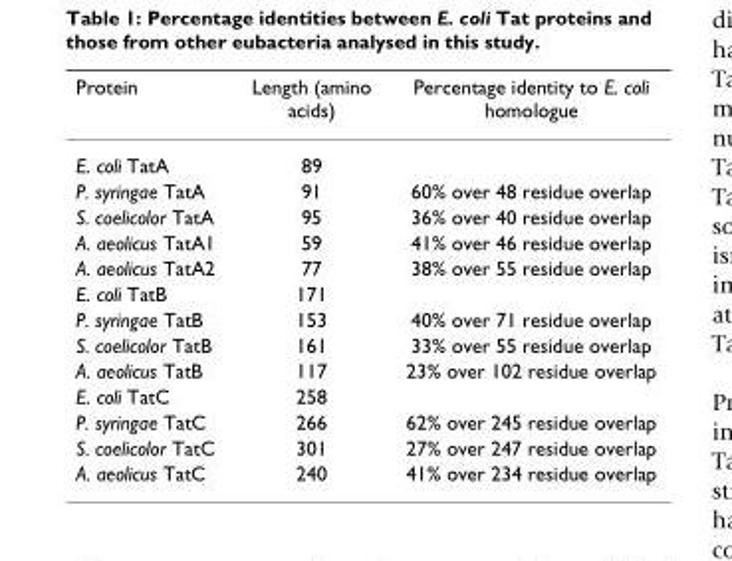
<table><thead><tr><td>Protein</td><td>Length (amino acids)</td><td>Percentage identity to E. coli homologue</td></tr></thead><tbody><tr><td>E. coli TatA</td><td>89</td><td></td></tr><tr><td>P. syringae TatA</td><td>91</td><td>60% over 48 residue overlap</td></tr><tr><td>S. coelicolor TatA</td><td>95</td><td>36% over 40 residue overlap</td></tr><tr><td>A. aeolicus TatA1</td><td>59</td><td>41% over 46 residue overlap</td></tr><tr><td>A. aeolicus TatA2</td><td>77</td><td>38% over 55 residue overlap</td></tr><tr><td>E. coli TatB</td><td>171</td><td></td></tr><tr><td>P. syringae TatB</td><td>153</td><td>40% over 71 residue overlap</td></tr><tr><td>S. coelicolor TatB</td><td>161</td><td>33% over 55 residue overlap</td></tr><tr><td>A. aeolicus TatB</td><td>117</td><td>23% over 102 residue overlap</td></tr><tr><td>E. coli TatC</td><td>258</td><td></td></tr><tr><td>P. syringae TatC</td><td>266</td><td>62% over 245 residue overlap</td></tr><tr><td>S. coelicolor TatC</td><td>301</td><td>27% over 247 residue overlap</td></tr><tr><td>A. aeolicus TatC</td><td>240</td><td>41% over 234 residue overlap</td></tr></tbody></table>